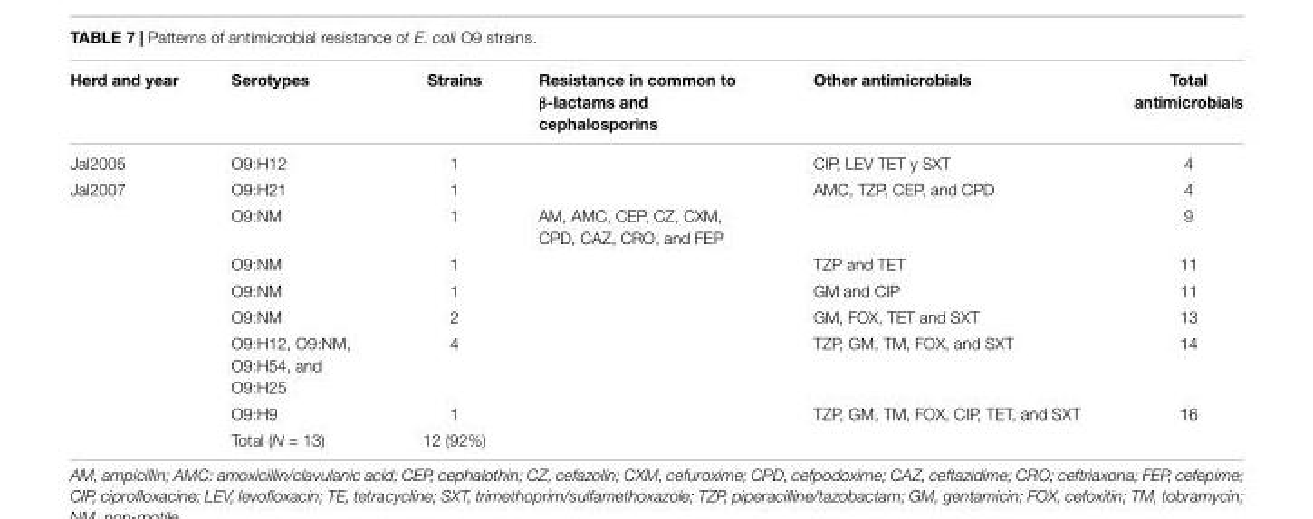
<table><thead><tr><td>Herd and year</td><td>Serotypes</td><td>Strains</td><td>Resistance in common to β-lactams and cephalosporins</td><td>Other antimicrobials</td><td>Total antimicrobials</td></tr></thead><tbody><tr><td>Jal2005</td><td>O9:H12</td><td>1</td><td></td><td>CIP, LEV TET y SXT</td><td>4</td></tr><tr><td rowspan="8">Jal2007</td><td>O9:H21</td><td>1</td><td></td><td>AMC, TZP, CEP, and CPD</td><td>4</td></tr><tr><td>O9:NM</td><td>1</td><td>AM, AMC, CEP, CZ, CXM, CPD, CAZ, CRO, and FEP</td><td></td><td>9</td></tr><tr><td>O9:NM</td><td>1</td><td></td><td>TZP and TET</td><td>11</td></tr><tr><td>O9:NM</td><td>1</td><td></td><td>GM and CIP</td><td>11</td></tr><tr><td>O9:NM</td><td>2</td><td></td><td>GM, FOX, TET and SXT</td><td>13</td></tr><tr><td>O9:H12, O9:NM, O9:H54, and O9:H25</td><td>4</td><td></td><td>TZP, GM, TM, FOX, and SXT</td><td>14</td></tr><tr><td>O9:H9</td><td>1</td><td></td><td>TZP, GM, TM, FOX, CIP, TET, and SXT</td><td>16</td></tr><tr><td>Total (N = 13)</td><td>12 (92%)</td><td></td><td></td><td></td></tr></tbody></table>